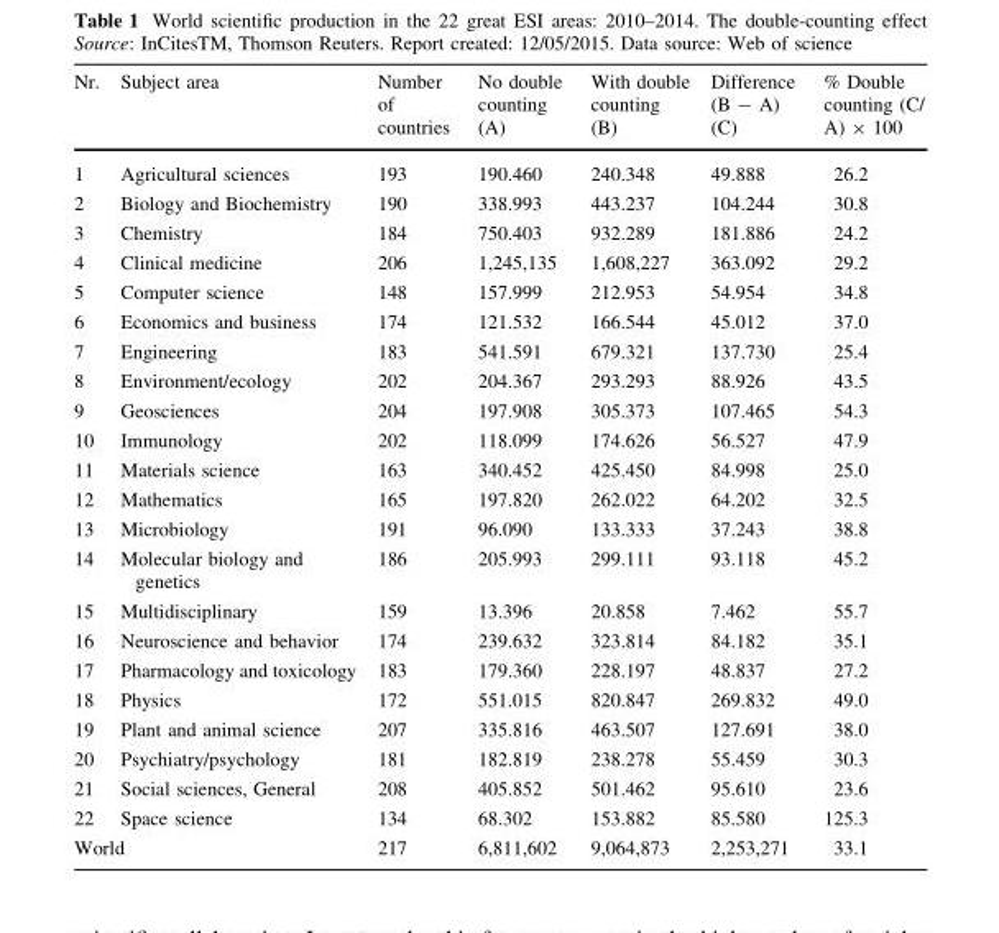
<table><thead><tr><td>Nr.</td><td>Subject area</td><td>Number of countries</td><td>No double counting (A)</td><td>With double counting (B)</td><td>Difference (B - A) (C)</td><td>% Double counting (C/ A) × 100</td></tr></thead><tbody><tr><td>1</td><td>Agricultural sciences</td><td>193</td><td>190.460</td><td>240.348</td><td>49.888</td><td>26.2</td></tr><tr><td>2</td><td>Biology and Biochemistry</td><td>190</td><td>338.993</td><td>443.237</td><td>104.244</td><td>30.8</td></tr><tr><td>3</td><td>Chemistry</td><td>184</td><td>750.403</td><td>932.289</td><td>181.886</td><td>24.2</td></tr><tr><td>4</td><td>Clinical medicine</td><td>206</td><td>1,245,135</td><td>1,608,227</td><td>363.092</td><td>29.2</td></tr><tr><td>5</td><td>Computer science</td><td>148</td><td>157.999</td><td>212.953</td><td>54.954</td><td>34.8</td></tr><tr><td>6</td><td>Economics and business</td><td>174</td><td>121.532</td><td>166.544</td><td>45.012</td><td>37.0</td></tr><tr><td>7</td><td>Engineering</td><td>183</td><td>541.591</td><td>679.321</td><td>137.730</td><td>25.4</td></tr><tr><td>8</td><td>Environment/ecology</td><td>202</td><td>204.367</td><td>293.293</td><td>88.926</td><td>43.5</td></tr><tr><td>9</td><td>Geosciences</td><td>204</td><td>197.908</td><td>305.373</td><td>107.465</td><td>54.3</td></tr><tr><td>10</td><td>Immunology</td><td>202</td><td>118.099</td><td>174.626</td><td>56.527</td><td>47.9</td></tr><tr><td>11</td><td>Materials science</td><td>163</td><td>340.452</td><td>425.450</td><td>84.998</td><td>25.0</td></tr><tr><td>12</td><td>Mathematics</td><td>165</td><td>197.820</td><td>262.022</td><td>64.202</td><td>32.5</td></tr><tr><td>13</td><td>Microbiology</td><td>191</td><td>96.090</td><td>133.333</td><td>37.243</td><td>38.8</td></tr><tr><td>14</td><td>Molecular biology and genetics</td><td>186</td><td>205.993</td><td>299.111</td><td>93.118</td><td>45.2</td></tr><tr><td>15</td><td>Multidisciplinary</td><td>159</td><td>13.396</td><td>20.858</td><td>7.462</td><td>55.7</td></tr><tr><td>16</td><td>Neuroscience and behavior</td><td>174</td><td>239.632</td><td>323.814</td><td>84.182</td><td>35.1</td></tr><tr><td>17</td><td>Pharmacology and toxicology</td><td>183</td><td>179.360</td><td>228.197</td><td>48.837</td><td>27.2</td></tr><tr><td>18</td><td>Physics</td><td>172</td><td>551.015</td><td>820.847</td><td>269.832</td><td>49.0</td></tr><tr><td>19</td><td>Plant and animal science</td><td>207</td><td>335.816</td><td>463.507</td><td>127.691</td><td>38.0</td></tr><tr><td>20</td><td>Psychiatry/psychology</td><td>181</td><td>182.819</td><td>238.278</td><td>55.459</td><td>30.3</td></tr><tr><td>21</td><td>Social sciences, General</td><td>208</td><td>405.852</td><td>501.462</td><td>95.610</td><td>23.6</td></tr><tr><td>22</td><td>Space science</td><td>134</td><td>68.302</td><td>153.882</td><td>85.580</td><td>125.3</td></tr><tr><td colspan="2">World</td><td>217</td><td>6,811,602</td><td>9,064,873</td><td>2,253,271</td><td>33.1</td></tr></tbody></table>